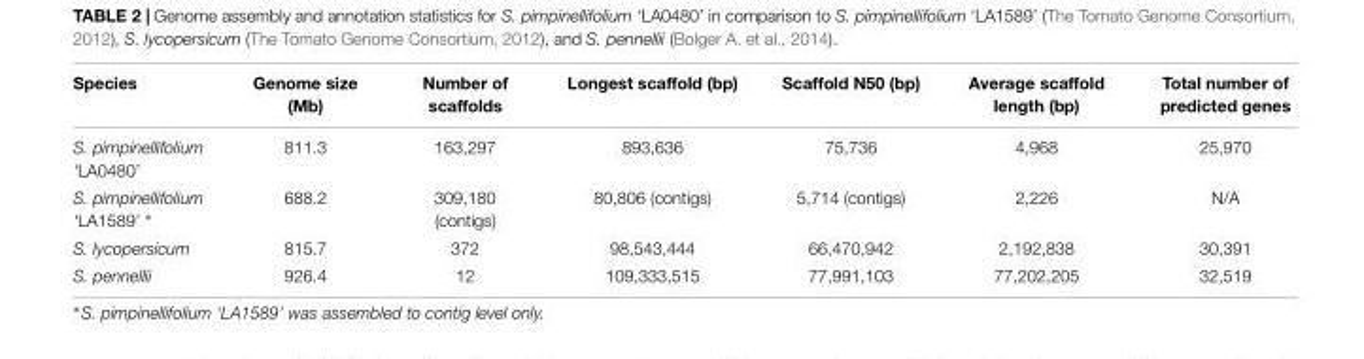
<table><thead><tr><td>Species</td><td>Genome size (Mb)</td><td>Number of scaffolds</td><td>Longest scaffold (bp)</td><td>Scaffold N50 (bp)</td><td>Average scaffold length (bp)</td><td>Total number of predicted genes</td></tr></thead><tbody><tr><td>S. pimpinellifolium ‘LA0480’</td><td>811.3</td><td>163,297</td><td>893,636</td><td>75,736</td><td>4,968</td><td>25,970</td></tr><tr><td>S. pimpinellifolium ‘LA1589’ ∗</td><td>688.2</td><td>309,180 (contigs)</td><td>80,806 (contigs)</td><td>5,714 (contigs)</td><td>2,226</td><td>N/A</td></tr><tr><td>S. lycopersicum</td><td>815.7</td><td>372</td><td>98,543,444</td><td>66,470,942</td><td>2,192,838</td><td>30,391</td></tr><tr><td>S. pennellii</td><td>926.4</td><td>12</td><td>109,333,515</td><td>77,991,103</td><td>77,202,205</td><td>32,519</td></tr></tbody></table>